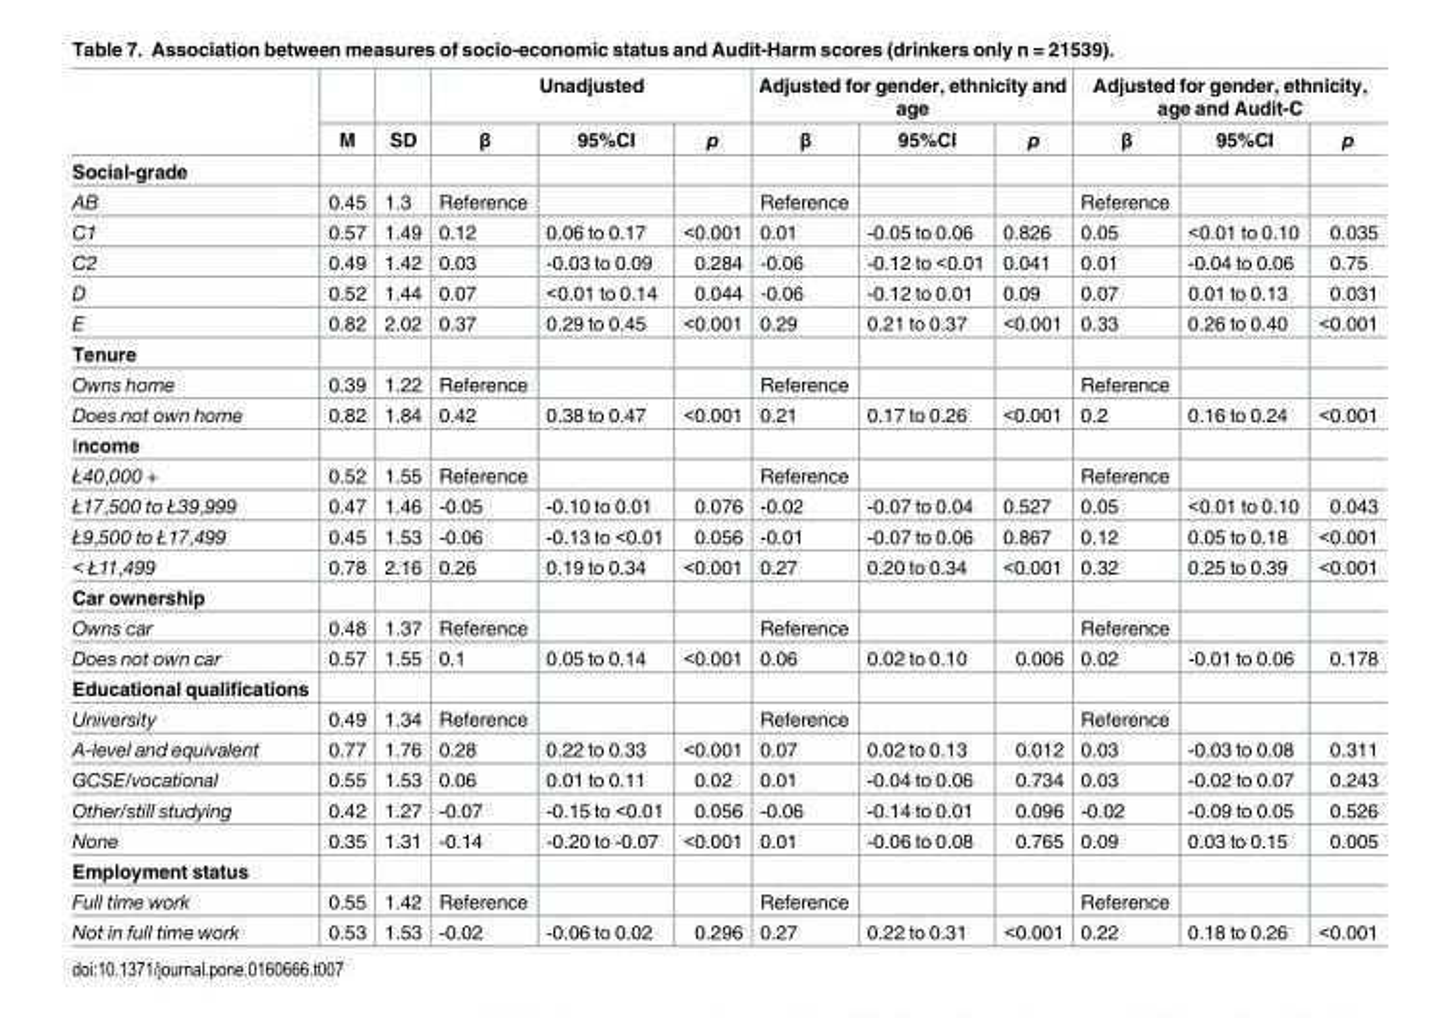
<table><thead><tr><td rowspan="2"></td><td rowspan="2">M</td><td rowspan="2">SD</td><td colspan="3">Unadjusted</td><td colspan="3">Adjusted for gender, ethnicity and age</td><td colspan="3">Adjusted for gender, ethnicity, age and Audit-C</td></tr><tr><td>β</td><td>95%CI</td><td>p</td><td>β</td><td>95%CI</td><td>p</td><td>β</td><td>95%CI</td><td>p</td></tr></thead><tbody><tr><td colspan="12">Social-grade</td></tr><tr><td>AB</td><td>0.45</td><td>1.3</td><td>Reference</td><td></td><td></td><td>Reference</td><td></td><td></td><td>Reference</td><td></td><td></td></tr><tr><td>C1</td><td>0.57</td><td>1.49</td><td>0.12</td><td>0.06 to 0.17</td><td>&lt;0.001</td><td>0.01</td><td>-0.05 to 0.06</td><td>0.826</td><td>0.05</td><td>&lt;0.01 to 0.10</td><td>0.035</td></tr><tr><td>C2</td><td>0.49</td><td>1.42</td><td>0.03</td><td>-0.03 to 0.09</td><td>0.284</td><td>-0.06</td><td>-0.12 to &lt;0.01</td><td>0.041</td><td>0.01</td><td>-0.04 to 0.06</td><td>0.75</td></tr><tr><td>D</td><td>0.52</td><td>1.44</td><td>0.07</td><td>&lt;0.01 to 0.14</td><td>0.044</td><td>-0.06</td><td>-0.12 to 0.01</td><td>0.09</td><td>0.07</td><td>0.01 to 0.13</td><td>0.031</td></tr><tr><td>E</td><td>0.82</td><td>2.02</td><td>0.37</td><td>0.29 to 0.45</td><td>&lt;0.001</td><td>0.29</td><td>0.21 to 0.37</td><td>&lt;0.001</td><td>0.33</td><td>0.26 to 0.40</td><td>&lt;0.001</td></tr><tr><td colspan="12">Tenure</td></tr><tr><td>Owns home</td><td>0.39</td><td>1.22</td><td>Reference</td><td></td><td></td><td>Reference</td><td></td><td></td><td>Reference</td><td></td><td></td></tr><tr><td>Does not own home</td><td>0.82</td><td>1.84</td><td>0.42</td><td>0.38 to 0.47</td><td>&lt;0.001</td><td>0.21</td><td>0.17 to 0.26</td><td>&lt;0.001</td><td>0.2</td><td>0.16 to 0.24</td><td>&lt;0.001</td></tr><tr><td colspan="12">Income</td></tr><tr><td>£40,000 +</td><td>0.52</td><td>1.55</td><td>Reference</td><td></td><td></td><td>Reference</td><td></td><td></td><td>Reference</td><td></td><td></td></tr><tr><td>£17,500 to £39,999</td><td>0.47</td><td>1.46</td><td>-0.05</td><td>-0.10 to 0.01</td><td>0.076</td><td>-0.02</td><td>-0.07 to 0.04</td><td>0.527</td><td>0.05</td><td>&lt;0.01 to 0.10</td><td>0.043</td></tr><tr><td>£9,500 to £17,499</td><td>0.45</td><td>1.53</td><td>-0.06</td><td>-0.13 to &lt;0.01</td><td>0.056</td><td>-0.01</td><td>-0.07 to 0.06</td><td>0.867</td><td>0.12</td><td>0.05 to 0.18</td><td>&lt;0.001</td></tr><tr><td>&lt; £11,499</td><td>0.78</td><td>2.16</td><td>0.26</td><td>0.19 to 0.34</td><td>&lt;0.001</td><td>0.27</td><td>0.20 to 0.34</td><td>&lt;0.001</td><td>0.32</td><td>0.25 to 0.39</td><td>&lt;0.001</td></tr><tr><td colspan="12">Car ownership</td></tr><tr><td>Owns car</td><td>0.48</td><td>1.37</td><td>Reference</td><td></td><td></td><td>Reference</td><td></td><td></td><td>Reference</td><td></td><td></td></tr><tr><td>Does not own car</td><td>0.57</td><td>1.55</td><td>0.1</td><td>0.05 to 0.14</td><td>&lt;0.001</td><td>0.06</td><td>0.02 to 0.10</td><td>0.006</td><td>0.02</td><td>-0.01 to 0.06</td><td>0.178</td></tr><tr><td colspan="12">Educational qualifications</td></tr><tr><td>University</td><td>0.49</td><td>1.34</td><td>Reference</td><td></td><td></td><td>Reference</td><td></td><td></td><td>Reference</td><td></td><td></td></tr><tr><td>A-level and equivalent</td><td>0.77</td><td>1.76</td><td>0.28</td><td>0.22 to 0.33</td><td>&lt;0.001</td><td>0.07</td><td>0.02 to 0.13</td><td>0.012</td><td>0.03</td><td>-0.03 to 0.08</td><td>0.311</td></tr><tr><td>GCSE/vocational</td><td>0.55</td><td>1.53</td><td>0.06</td><td>0.01 to 0.11</td><td>0.02</td><td>0.01</td><td>-0.04 to 0.06</td><td>0.734</td><td>0.03</td><td>-0.02 to 0.07</td><td>0.243</td></tr><tr><td>Other/still studying</td><td>0.42</td><td>1.27</td><td>-0.07</td><td>-0.15 to &lt;0.01</td><td>0.056</td><td>-0.06</td><td>-0.14 to 0.01</td><td>0.096</td><td>-0.02</td><td>-0.09 to 0.05</td><td>0.526</td></tr><tr><td>None</td><td>0.35</td><td>1.31</td><td>-0.14</td><td>-0.20 to -0.07</td><td>&lt;0.001</td><td>0.01</td><td>-0.06 to 0.08</td><td>0.765</td><td>0.09</td><td>0.03 to 0.15</td><td>0.005</td></tr><tr><td colspan="12">Employment status</td></tr><tr><td>Full time work</td><td>0.55</td><td>1.42</td><td>Reference</td><td></td><td></td><td>Reference</td><td></td><td></td><td>Reference</td><td></td><td></td></tr><tr><td>Not in full time work</td><td>0.53</td><td>1.53</td><td>-0.02</td><td>-0.06 to 0.02</td><td>0.296</td><td>0.27</td><td>0.22 to 0.31</td><td>&lt;0.001</td><td>0.22</td><td>0.18 to 0.26</td><td>&lt;0.001</td></tr></tbody></table>